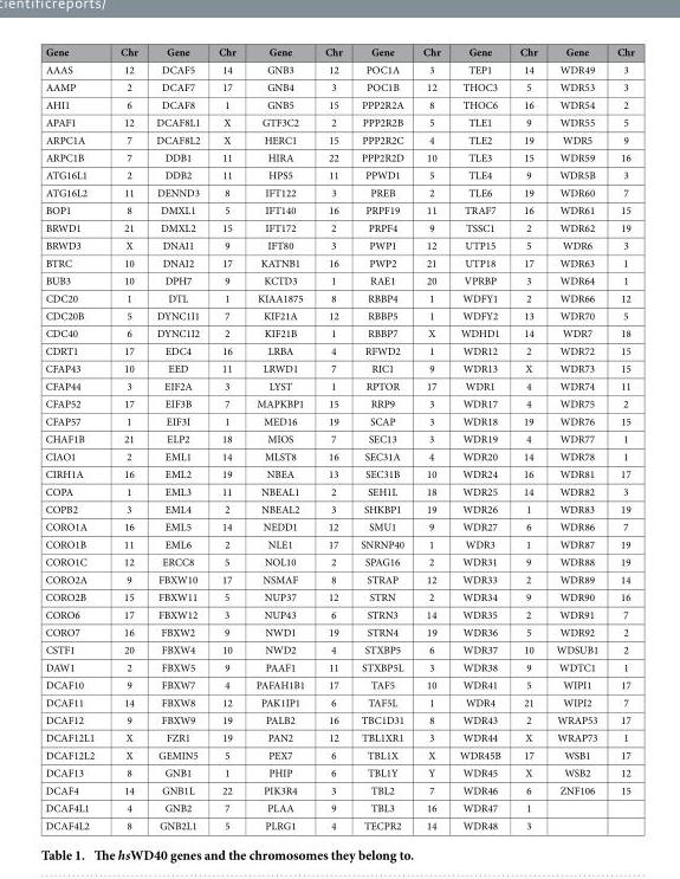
<table><thead><tr><td>Gene</td><td>Chr</td><td>Gene</td><td>Chr</td><td>Gene</td><td>Chr</td><td>Gene</td><td>Chr</td><td>Gene</td><td>Chr</td><td>Gene</td><td>Chr</td></tr></thead><tbody><tr><td>AAAS</td><td>12</td><td>DCAF5</td><td>14</td><td>GNB3</td><td>12</td><td>POC1A</td><td>3</td><td>TEP1</td><td>14</td><td>WDR49</td><td>3</td></tr><tr><td>AAMP</td><td>2</td><td>DCAF7</td><td>17</td><td>GNB4</td><td>3</td><td>POC1B</td><td>12</td><td>THOC3</td><td>5</td><td>WDR53</td><td>3</td></tr><tr><td>AHI1</td><td>6</td><td>DCAF8</td><td>1</td><td>GNB5</td><td>15</td><td>PPP2R2A</td><td>8</td><td>THOC6</td><td>16</td><td>WDR54</td><td>2</td></tr><tr><td>APAF1</td><td>12</td><td>DCAF8L1</td><td>X</td><td>GTF3C2</td><td>2</td><td>PPP2R2B</td><td>5</td><td>TLE1</td><td>9</td><td>WDR55</td><td>5</td></tr><tr><td>ARPC1A</td><td>7</td><td>DCAF8L2</td><td>X</td><td>HERC1</td><td>15</td><td>PPP2R2C</td><td>4</td><td>TLE2</td><td>19</td><td>WDR5</td><td>9</td></tr><tr><td>ARPC1B</td><td>7</td><td>DDB1</td><td>11</td><td>HIRA</td><td>22</td><td>PPP2R2D</td><td>10</td><td>TLE3</td><td>15</td><td>WDR59</td><td>16</td></tr><tr><td>ATG16L1</td><td>2</td><td>DDB2</td><td>11</td><td>HPS5</td><td>11</td><td>PPWD1</td><td>5</td><td>TLE4</td><td>9</td><td>WDR5B</td><td>3</td></tr><tr><td>ATG16L2</td><td>11</td><td>DENND3</td><td>8</td><td>IFT122</td><td>3</td><td>PREB</td><td>2</td><td>TLE6</td><td>19</td><td>WDR60</td><td>7</td></tr><tr><td>BOP1</td><td>8</td><td>DMXL1</td><td>5</td><td>IFT140</td><td>16</td><td>PRPF19</td><td>11</td><td>TRAF7</td><td>16</td><td>WDR61</td><td>15</td></tr><tr><td>BRWD1</td><td>21</td><td>DMXL2</td><td>15</td><td>IFT172</td><td>2</td><td>PRPF4</td><td>9</td><td>TSSC1</td><td>2</td><td>WDR62</td><td>19</td></tr><tr><td>BRWD3</td><td>X</td><td>DNAI1</td><td>9</td><td>IFT80</td><td>3</td><td>PWP1</td><td>12</td><td>UTP15</td><td>5</td><td>WDR6</td><td>3</td></tr><tr><td>BTRC</td><td>10</td><td>DNAI2</td><td>17</td><td>KATNB1</td><td>16</td><td>PWP2</td><td>21</td><td>UTP18</td><td>17</td><td>WDR63</td><td>1</td></tr><tr><td>BUB3</td><td>10</td><td>DPH7</td><td>9</td><td>KCTD3</td><td>1</td><td>RAE1</td><td>20</td><td>VPRBP</td><td>3</td><td>WDR64</td><td>1</td></tr><tr><td>CDC20</td><td>1</td><td>DTL</td><td>1</td><td>KIAA1875</td><td>8</td><td>RBBP4</td><td>1</td><td>WDFY1</td><td>2</td><td>WDR66</td><td>12</td></tr><tr><td>CDC20B</td><td>5</td><td>DYNC1I1</td><td>7</td><td>KIF21A</td><td>12</td><td>RBBP5</td><td>1</td><td>WDFY2</td><td>13</td><td>WDR70</td><td>5</td></tr><tr><td>CDC40</td><td>6</td><td>DYNC1I2</td><td>2</td><td>KIF21B</td><td>1</td><td>RBBP7</td><td>X</td><td>WDHD1</td><td>14</td><td>WDR7</td><td>18</td></tr><tr><td>CDRT1</td><td>17</td><td>EDC4</td><td>16</td><td>LRBA</td><td>4</td><td>RFWD2</td><td>1</td><td>WDR12</td><td>2</td><td>WDR72</td><td>15</td></tr><tr><td>CFAP43</td><td>10</td><td>EED</td><td>11</td><td>LRWD1</td><td>7</td><td>RIC1</td><td>9</td><td>WDR13</td><td>X</td><td>WDR73</td><td>15</td></tr><tr><td>CFAP44</td><td>3</td><td>EIF2A</td><td>3</td><td>LYST</td><td>1</td><td>RPTOR</td><td>17</td><td>WDR1</td><td>4</td><td>WDR74</td><td>11</td></tr><tr><td>CFAP52</td><td>17</td><td>EIF3B</td><td>7</td><td>MAPKBP1</td><td>15</td><td>RRP9</td><td>3</td><td>WDR17</td><td>4</td><td>WDR75</td><td>2</td></tr><tr><td>CFAP57</td><td>1</td><td>EIF3I</td><td>1</td><td>MED16</td><td>19</td><td>SCAP</td><td>3</td><td>WDR18</td><td>19</td><td>WDR76</td><td>15</td></tr><tr><td>CHAF1B</td><td>21</td><td>ELP2</td><td>18</td><td>MIOS</td><td>7</td><td>SEC13</td><td>3</td><td>WDR19</td><td>4</td><td>WDR77</td><td>1</td></tr><tr><td>CIAO1</td><td>2</td><td>EML1</td><td>14</td><td>MLST8</td><td>16</td><td>SEC31A</td><td>4</td><td>WDR20</td><td>14</td><td>WDR78</td><td>1</td></tr><tr><td>CIRH1A</td><td>16</td><td>EML2</td><td>19</td><td>NBEA</td><td>13</td><td>SEC31B</td><td>10</td><td>WDR24</td><td>16</td><td>WDR81</td><td>17</td></tr><tr><td>COPA</td><td>1</td><td>EML3</td><td>11</td><td>NBEAL1</td><td>2</td><td>SEH1L</td><td>18</td><td>WDR25</td><td>14</td><td>WDR82</td><td>3</td></tr><tr><td>COPB2</td><td>3</td><td>EML4</td><td>2</td><td>NBEAL2</td><td>3</td><td>SHKBP1</td><td>19</td><td>WDR26</td><td>1</td><td>WDR83</td><td>19</td></tr><tr><td>CORO1A</td><td>16</td><td>EML5</td><td>14</td><td>NEDD1</td><td>12</td><td>SMU1</td><td>9</td><td>WDR27</td><td>6</td><td>WDR86</td><td>7</td></tr><tr><td>CORO1B</td><td>11</td><td>EML6</td><td>2</td><td>NLE1</td><td>17</td><td>SNRNP40</td><td>1</td><td>WDR3</td><td>1</td><td>WDR87</td><td>19</td></tr><tr><td>CORO1C</td><td>12</td><td>ERCC8</td><td>5</td><td>NOL10</td><td>2</td><td>SPAG16</td><td>2</td><td>WDR31</td><td>9</td><td>WDR88</td><td>19</td></tr><tr><td>CORO2A</td><td>9</td><td>FBXW10</td><td>17</td><td>NSMAF</td><td>8</td><td>STRAP</td><td>12</td><td>WDR33</td><td>2</td><td>WDR89</td><td>14</td></tr><tr><td>CORO2B</td><td>15</td><td>FBXW11</td><td>5</td><td>NUP37</td><td>12</td><td>STRN</td><td>2</td><td>WDR34</td><td>9</td><td>WDR90</td><td>16</td></tr><tr><td>CORO6</td><td>17</td><td>FBXW12</td><td>3</td><td>NUP43</td><td>6</td><td>STRN3</td><td>14</td><td>WDR35</td><td>2</td><td>WDR91</td><td>7</td></tr><tr><td>CORO7</td><td>16</td><td>FBXW2</td><td>9</td><td>NWD1</td><td>19</td><td>STRN4</td><td>19</td><td>WDR36</td><td>5</td><td>WDR92</td><td>2</td></tr><tr><td>CSTF1</td><td>20</td><td>FBXW4</td><td>10</td><td>NWD2</td><td>4</td><td>STXBP5</td><td>6</td><td>WDR37</td><td>10</td><td>WDSUB1</td><td>2</td></tr><tr><td>DAW1</td><td>2</td><td>FBXW5</td><td>9</td><td>PAAF1</td><td>11</td><td>STXBP5L</td><td>3</td><td>WDR38</td><td>9</td><td>WDTC1</td><td>1</td></tr><tr><td>DCAF10</td><td>9</td><td>FBXW7</td><td>4</td><td>PAFAH1B1</td><td>17</td><td>TAF5</td><td>10</td><td>WDR41</td><td>5</td><td>WIPI1</td><td>17</td></tr><tr><td>DCAF11</td><td>14</td><td>FBXW8</td><td>12</td><td>PAK1IP1</td><td>6</td><td>TAF5L</td><td>1</td><td>WDR4</td><td>21</td><td>WIPI2</td><td>7</td></tr><tr><td>DCAF12</td><td>9</td><td>FBXW9</td><td>19</td><td>PALB2</td><td>16</td><td>TBC1D31</td><td>8</td><td>WDR43</td><td>2</td><td>WRAP53</td><td>17</td></tr><tr><td>DCAF12L1</td><td>X</td><td>FZR1</td><td>19</td><td>PAN2</td><td>12</td><td>TBL1XR1</td><td>3</td><td>WDR44</td><td>X</td><td>WRAP73</td><td>1</td></tr><tr><td>DCAF12L2</td><td>X</td><td>GEMIN5</td><td>5</td><td>PEX7</td><td>6</td><td>TBL1X</td><td>X</td><td>WDR45B</td><td>17</td><td>WSB1</td><td>17</td></tr><tr><td>DCAF13</td><td>8</td><td>GNB1</td><td>1</td><td>PHIP</td><td>6</td><td>TBL1Y</td><td>Y</td><td>WDR45</td><td>X</td><td>WSB2</td><td>12</td></tr><tr><td>DCAF4</td><td>14</td><td>GNB1L</td><td>22</td><td>PIK3R4</td><td>3</td><td>TBL2</td><td>7</td><td>WDR46</td><td>6</td><td>ZNF106</td><td>15</td></tr><tr><td>DCAF4L1</td><td>4</td><td>GNB2</td><td>7</td><td>PLAA</td><td>9</td><td>TBL3</td><td>16</td><td>WDR47</td><td>1</td><td></td><td></td></tr><tr><td>DCAF4L2</td><td>8</td><td>GNB2L1</td><td>5</td><td>PLRG1</td><td>4</td><td>TECPR2</td><td>14</td><td>WDR48</td><td>3</td><td></td><td></td></tr></tbody></table>